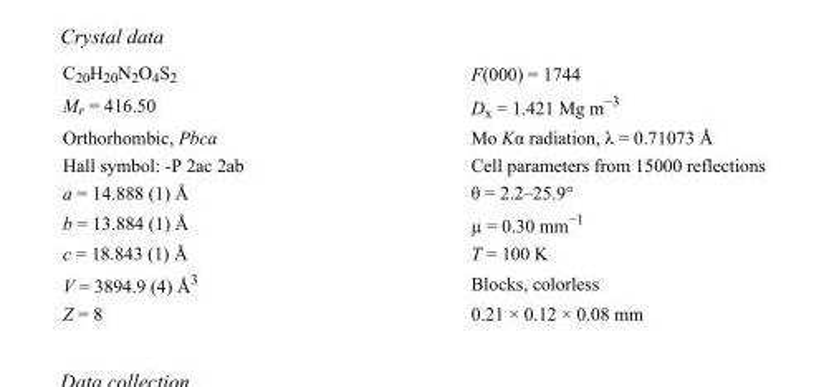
<table><tbody><tr><td>C<sub>20</sub>H<sub>20</sub>N<sub>2</sub>O<sub>4</sub>S<sub>2</sub></td><td>F(000) = 1744</td></tr><tr><td>M<sub>r</sub> = 416.50</td><td>D<sub>x</sub> = 1.421 Mg m<sup>−3</sup></td></tr><tr><td>Orthorhombic, Pbca</td><td>Mo Kα radiation, λ = 0.71073 Å</td></tr><tr><td>Hall symbol: -P 2ac 2ab</td><td>Cell parameters from 15000 reflections</td></tr><tr><td>a = 14.888 (1) Å</td><td>θ = 2.2–25.9°</td></tr><tr><td>b = 13.884 (1) Å</td><td>µ = 0.30 mm<sup>−1</sup></td></tr><tr><td>c = 18.843 (1) Å</td><td>T = 100 K</td></tr><tr><td>V = 3894.9 (4) Å<sup>3</sup></td><td>Blocks, colorless</td></tr><tr><td>Z = 8</td><td>0.21 × 0.12 × 0.08 mm</td></tr></tbody></table>